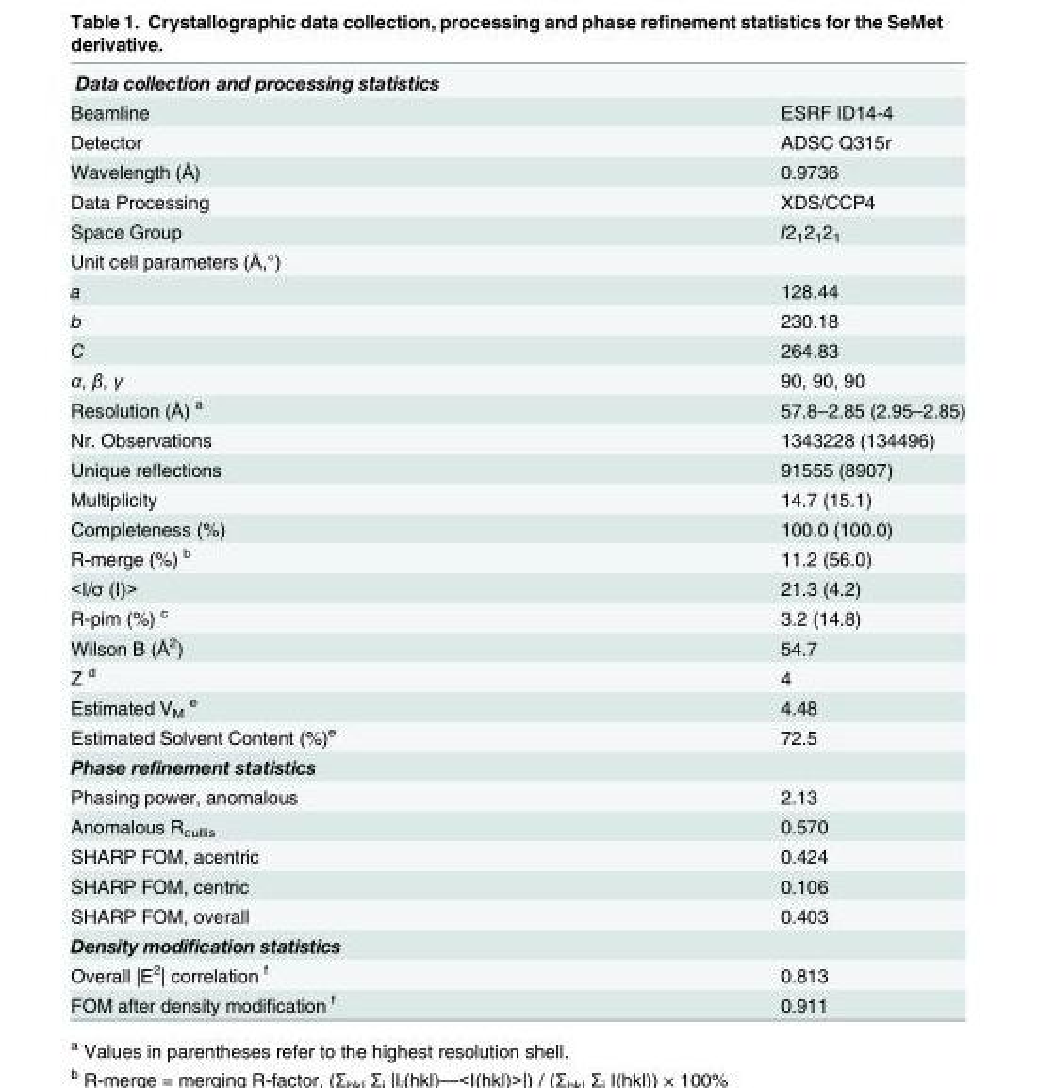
<table><tbody><tr><td colspan="2">Data collection and processing statistics</td></tr><tr><td>Beamline</td><td>ESRF ID14-4</td></tr><tr><td>Detector</td><td>ADSC Q315r</td></tr><tr><td>Wavelength (Å)</td><td>0.9736</td></tr><tr><td>Data Processing</td><td>XDS/CCP4</td></tr><tr><td>Space Group</td><td>I2<sub>1</sub>2<sub>1</sub>2<sub>1</sub></td></tr><tr><td colspan="2">Unit cell parameters (Å,°)</td></tr><tr><td>a</td><td>128.44</td></tr><tr><td>b</td><td>230.18</td></tr><tr><td>C</td><td>264.83</td></tr><tr><td>α, β, γ</td><td>90, 90, 90</td></tr><tr><td>Resolution (Å) <sup>a</sup></td><td>57.8–2.85 (2.95–2.85)</td></tr><tr><td>Nr. Observations</td><td>1343228 (134496)</td></tr><tr><td>Unique reflections</td><td>91555 (8907)</td></tr><tr><td>Multiplicity</td><td>14.7 (15.1)</td></tr><tr><td>Completeness (%)</td><td>100.0 (100.0)</td></tr><tr><td>R-merge (%) <sup>b</sup></td><td>11.2 (56.0)</td></tr><tr><td>&lt;I/σ (I)&gt;</td><td>21.3 (4.2)</td></tr><tr><td>R-pim (%) <sup>c</sup></td><td>3.2 (14.8)</td></tr><tr><td>Wilson B (Å<sup>2</sup>)</td><td>54.7</td></tr><tr><td>Z <sup>d</sup></td><td>4</td></tr><tr><td>Estimated V<sub>M</sub> <sup>e</sup></td><td>4.48</td></tr><tr><td>Estimated Solvent Content (%)<sup>e</sup></td><td>72.5</td></tr><tr><td colspan="2">Phase refinement statistics</td></tr><tr><td>Phasing power, anomalous</td><td>2.13</td></tr><tr><td>Anomalous R<sub>cullis</sub></td><td>0.570</td></tr><tr><td>SHARP FOM, acentric</td><td>0.424</td></tr><tr><td>SHARP FOM, centric</td><td>0.106</td></tr><tr><td>SHARP FOM, overall</td><td>0.403</td></tr><tr><td colspan="2">Density modification statistics</td></tr><tr><td>Overall |E<sup>2</sup>| correlation <sup>f</sup></td><td>0.813</td></tr><tr><td>FOM after density modification <sup>f</sup></td><td>0.911</td></tr></tbody></table>